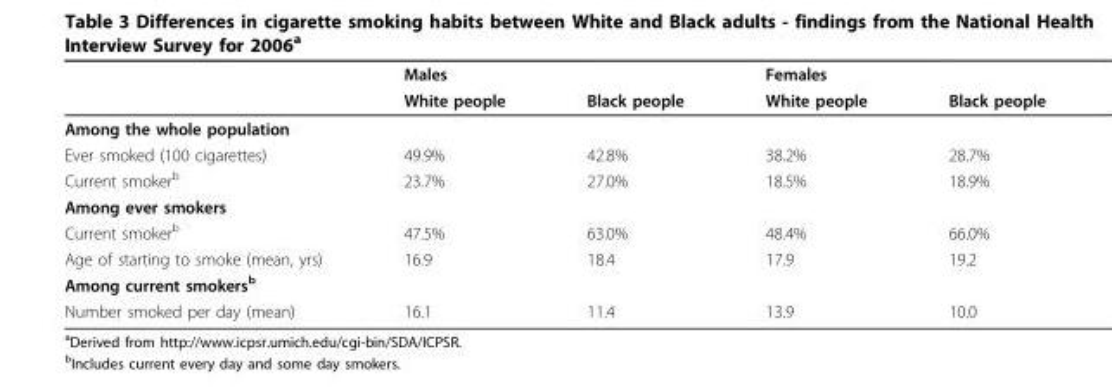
<table><thead><tr><td rowspan="2"></td><td rowspan="2">Males White people</td><td rowspan="2">Black people</td><td rowspan="2">Females White people</td><td rowspan="2">Black people</td></tr><tr></tr></thead><tbody><tr><td colspan="5">Among the whole population</td></tr><tr><td>Ever smoked (100 cigarettes)</td><td>49.9%</td><td>42.8%</td><td>38.2%</td><td>28.7%</td></tr><tr><td>Current smoker<sup>b</sup></td><td>23.7%</td><td>27.0%</td><td>18.5%</td><td>18.9%</td></tr><tr><td colspan="5">Among ever smokers</td></tr><tr><td>Current smoker<sup>b</sup></td><td>47.5%</td><td>63.0%</td><td>48.4%</td><td>66.0%</td></tr><tr><td>Age of starting to smoke (mean, yrs)</td><td>16.9</td><td>18.4</td><td>17.9</td><td>19.2</td></tr><tr><td colspan="5">Among current smokers<sup>b</sup></td></tr><tr><td>Number smoked per day (mean)</td><td>16.1</td><td>11.4</td><td>13.9</td><td>10.0</td></tr></tbody></table>